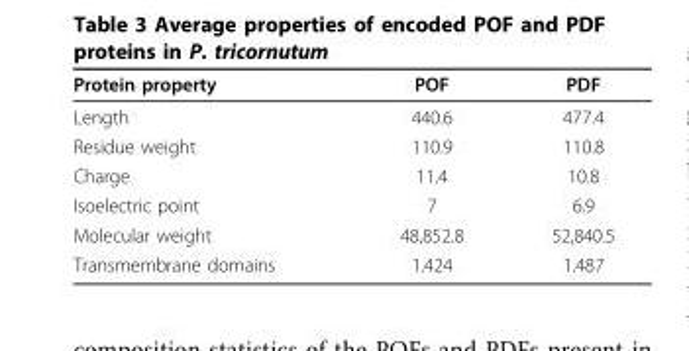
<table><thead><tr><td>Protein property</td><td>POF</td><td>PDF</td></tr></thead><tbody><tr><td>Length</td><td>440.6</td><td>477.4</td></tr><tr><td>Residue weight</td><td>110.9</td><td>110.8</td></tr><tr><td>Charge</td><td>11.4</td><td>10.8</td></tr><tr><td>Isoelectric point</td><td>7</td><td>6.9</td></tr><tr><td>Molecular weight</td><td>48,852.8</td><td>52,840.5</td></tr><tr><td>Transmembrane domains</td><td>1.424</td><td>1.487</td></tr></tbody></table>